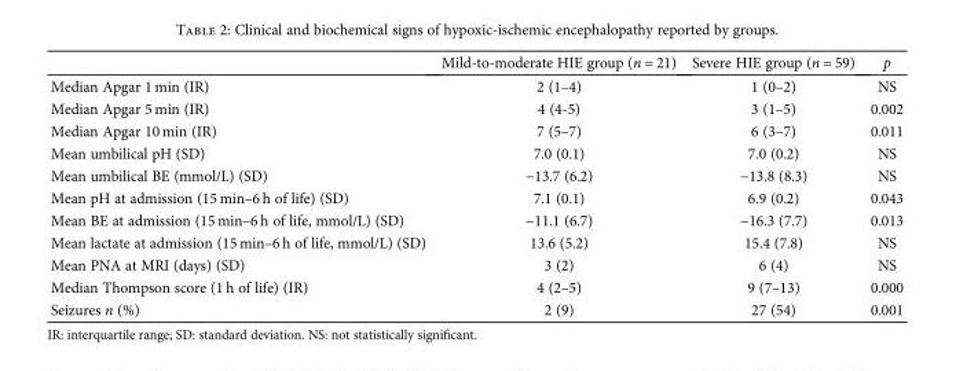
<table><thead><tr><td></td><td>Mild-to-moderate HIE group (n = 21)</td><td>Severe HIE group (n = 59)</td><td>p</td></tr></thead><tbody><tr><td>Median Apgar 1 min (IR)</td><td>2 (1–4)</td><td>1 (0–2)</td><td>NS</td></tr><tr><td>Median Apgar 5 min (IR)</td><td>4 (4-5)</td><td>3 (1–5)</td><td>0.002</td></tr><tr><td>Median Apgar 10 min (IR)</td><td>7 (5–7)</td><td>6 (3–7)</td><td>0.011</td></tr><tr><td>Mean umbilical pH (SD)</td><td>7.0 (0.1)</td><td>7.0 (0.2)</td><td>NS</td></tr><tr><td>Mean umbilical BE (mmol/L) (SD)</td><td>−13.7 (6.2)</td><td>−13.8 (8.3)</td><td>NS</td></tr><tr><td>Mean pH at admission (15 min–6 h of life) (SD)</td><td>7.1 (0.1)</td><td>6.9 (0.2)</td><td>0.043</td></tr><tr><td>Mean BE at admission (15 min–6 h of life, mmol/L) (SD)</td><td>−11.1 (6.7)</td><td>−16.3 (7.7)</td><td>0.013</td></tr><tr><td>Mean lactate at admission (15 min–6 h of life, mmol/L) (SD)</td><td>13.6 (5.2)</td><td>15.4 (7.8)</td><td>NS</td></tr><tr><td>Mean PNA at MRI (days) (SD)</td><td>3 (2)</td><td>6 (4)</td><td>NS</td></tr><tr><td>Median Thompson score (1 h of life) (IR)</td><td>4 (2–5)</td><td>9 (7–13)</td><td>0.000</td></tr><tr><td>Seizures n (%)</td><td>2 (9)</td><td>27 (54)</td><td>0.001</td></tr></tbody></table>